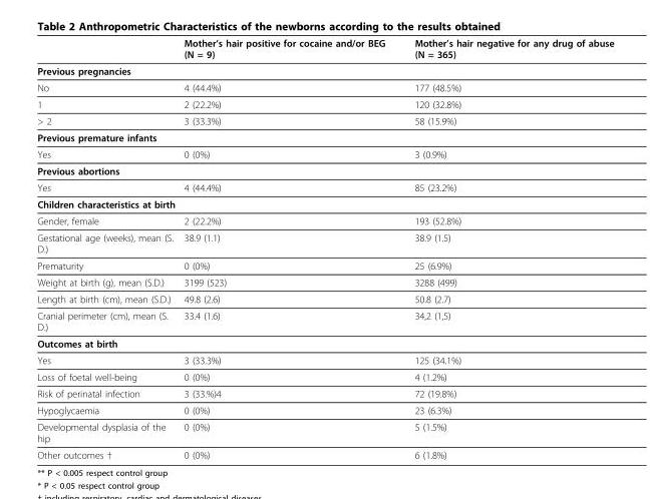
<table><thead><tr><td></td><td>Mother’s hair positive for cocaine and/or BEG (N = 9)</td><td>Mother’s hair negative for any drug of abuse (N = 365)</td></tr></thead><tbody><tr><td colspan="3">Previous pregnancies</td></tr><tr><td>No</td><td>4 (44.4%)</td><td>177 (48.5%)</td></tr><tr><td>1</td><td>2 (22.2%)</td><td>120 (32.8%)</td></tr><tr><td>&gt; 2</td><td>3 (33.3%)</td><td>58 (15.9%)</td></tr><tr><td colspan="3">Previous premature infants</td></tr><tr><td>Yes</td><td>0 (0%)</td><td>3 (0.9%)</td></tr><tr><td colspan="3">Previous abortions</td></tr><tr><td>Yes</td><td>4 (44.4%)</td><td>85 (23.2%)</td></tr><tr><td colspan="3">Children characteristics at birth</td></tr><tr><td>Gender, female</td><td>2 (22.2%)</td><td>193 (52.8%)</td></tr><tr><td>Gestational age (weeks), mean (S. D.)</td><td>38.9 (1.1)</td><td>38.9 (1.5)</td></tr><tr><td>Prematurity</td><td>0 (0%)</td><td>25 (6.9%)</td></tr><tr><td>Weight at birth (g), mean (S.D.)</td><td>3199 (523)</td><td>3288 (499)</td></tr><tr><td>Length at birth (cm), mean (S.D.)</td><td>49.8 (2.6)</td><td>50.8 (2.7)</td></tr><tr><td>Cranial perimeter (cm), mean (S. D.)</td><td>33.4 (1.6)</td><td>34,2 (1,5)</td></tr><tr><td colspan="3">Outcomes at birth</td></tr><tr><td>Yes</td><td>3 (33.3%)</td><td>125 (34.1%)</td></tr><tr><td>Loss of foetal well-being</td><td>0 (0%)</td><td>4 (1.2%)</td></tr><tr><td>Risk of perinatal infection</td><td>3 (33.%)4</td><td>72 (19.8%)</td></tr><tr><td>Hypoglycaemia</td><td>0 (0%)</td><td>23 (6.3%)</td></tr><tr><td>Developmental dysplasia of the hip</td><td>0 (0%)</td><td>5 (1.5%)</td></tr><tr><td>Other outcomes †</td><td>0 (0%)</td><td>6 (1.8%)</td></tr></tbody></table>